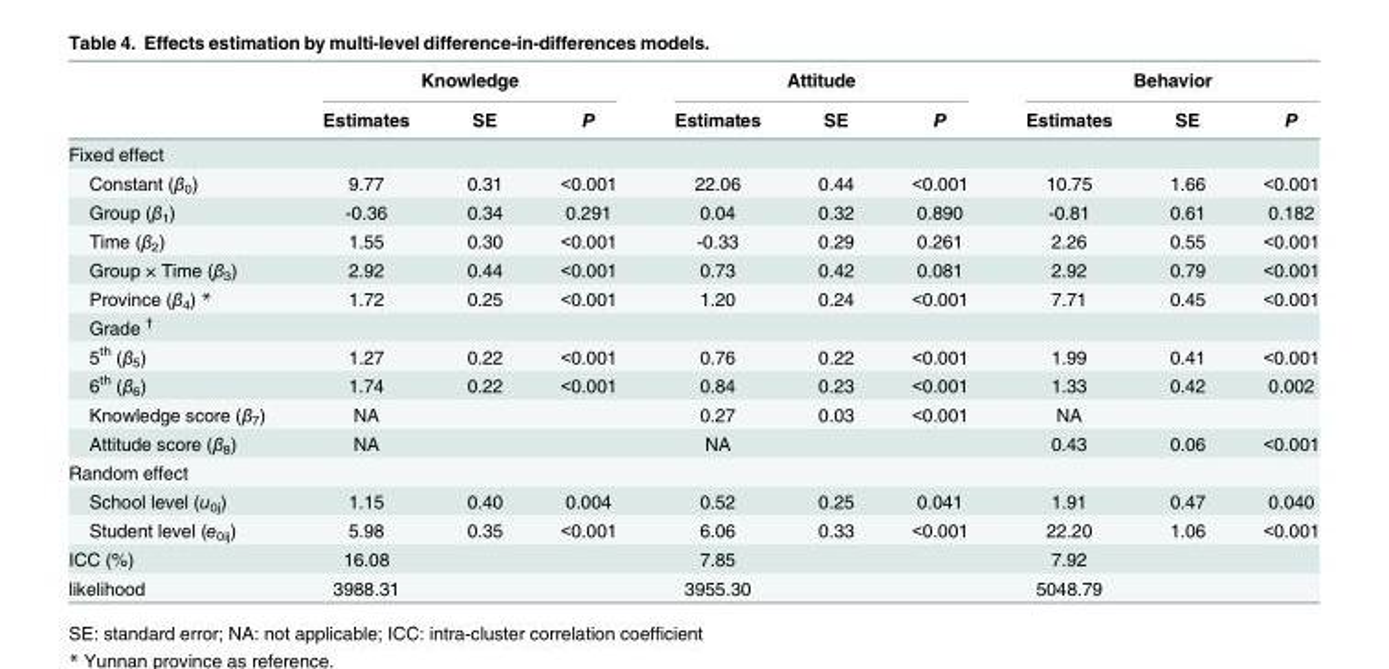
<table><thead><tr><td rowspan="2"></td><td colspan="3">Knowledge</td><td colspan="3">Attitude</td><td colspan="3">Behavior</td></tr><tr><td>Estimates</td><td>SE</td><td>P</td><td>Estimates</td><td>SE</td><td>P</td><td>Estimates</td><td>SE</td><td>P</td></tr></thead><tbody><tr><td colspan="10">Fixed effect</td></tr><tr><td>Constant (β<sub>0</sub>)</td><td>9.77</td><td>0.31</td><td>&lt;0.001</td><td>22.06</td><td>0.44</td><td>&lt;0.001</td><td>10.75</td><td>1.66</td><td>&lt;0.001</td></tr><tr><td>Group (β<sub>1</sub>)</td><td>-0.36</td><td>0.34</td><td>0.291</td><td>0.04</td><td>0.32</td><td>0.890</td><td>-0.81</td><td>0.61</td><td>0.182</td></tr><tr><td>Time (β<sub>2</sub>)</td><td>1.55</td><td>0.30</td><td>&lt;0.001</td><td>-0.33</td><td>0.29</td><td>0.261</td><td>2.26</td><td>0.55</td><td>&lt;0.001</td></tr><tr><td>Group × Time (β<sub>3</sub>)</td><td>2.92</td><td>0.44</td><td>&lt;0.001</td><td>0.73</td><td>0.42</td><td>0.081</td><td>2.92</td><td>0.79</td><td>&lt;0.001</td></tr><tr><td>Province (β<sub>4</sub>) *</td><td>1.72</td><td>0.25</td><td>&lt;0.001</td><td>1.20</td><td>0.24</td><td>&lt;0.001</td><td>7.71</td><td>0.45</td><td>&lt;0.001</td></tr><tr><td colspan="10">Grade <sup>†</sup></td></tr><tr><td>5<sup>th</sup> (β<sub>5</sub>)</td><td>1.27</td><td>0.22</td><td>&lt;0.001</td><td>0.76</td><td>0.22</td><td>&lt;0.001</td><td>1.99</td><td>0.41</td><td>&lt;0.001</td></tr><tr><td>6<sup>th</sup> (β<sub>6</sub>)</td><td>1.74</td><td>0.22</td><td>&lt;0.001</td><td>0.84</td><td>0.23</td><td>&lt;0.001</td><td>1.33</td><td>0.42</td><td>0.002</td></tr><tr><td>Knowledge score (β<sub>7</sub>)</td><td>NA</td><td></td><td></td><td>0.27</td><td>0.03</td><td>&lt;0.001</td><td>NA</td><td></td><td></td></tr><tr><td>Attitude score (β<sub>8</sub>)</td><td>NA</td><td></td><td></td><td>NA</td><td></td><td></td><td>0.43</td><td>0.06</td><td>&lt;0.001</td></tr><tr><td colspan="10">Random effect</td></tr><tr><td>School level (u<sub>0j</sub>)</td><td>1.15</td><td>0.40</td><td>0.004</td><td>0.52</td><td>0.25</td><td>0.041</td><td>1.91</td><td>0.47</td><td>0.040</td></tr><tr><td>Student level (e<sub>0ij</sub>)</td><td>5.98</td><td>0.35</td><td>&lt;0.001</td><td>6.06</td><td>0.33</td><td>&lt;0.001</td><td>22.20</td><td>1.06</td><td>&lt;0.001</td></tr><tr><td>ICC (%)</td><td>16.08</td><td></td><td></td><td>7.85</td><td></td><td></td><td>7.92</td><td></td><td></td></tr><tr><td>likelihood</td><td>3988.31</td><td></td><td></td><td>3955.30</td><td></td><td></td><td>5048.79</td><td></td><td></td></tr></tbody></table>